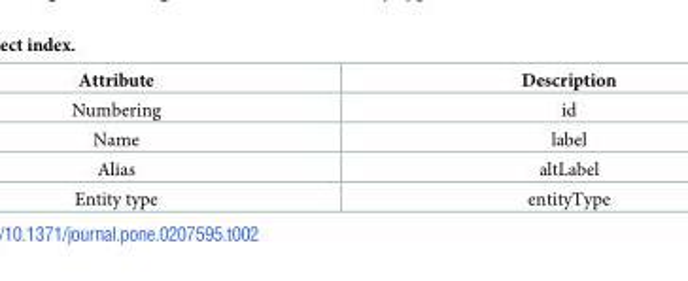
<table><thead><tr><td>Attribute</td><td>Description</td></tr></thead><tbody><tr><td>Numbering</td><td>id</td></tr><tr><td>Name</td><td>label</td></tr><tr><td>Alias</td><td>altLabel</td></tr><tr><td>Entity type</td><td>entityType</td></tr></tbody></table>